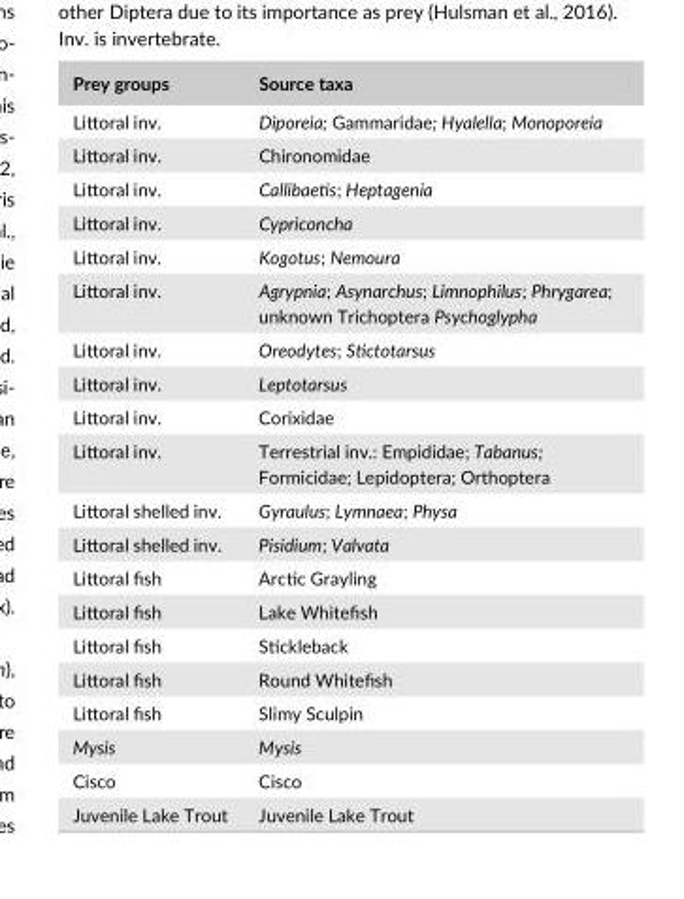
<table><thead><tr><td>Prey groups</td><td>Source taxa</td></tr></thead><tbody><tr><td>Littoral inv.</td><td>Diporeia; Gammaridae; Hyalella; Monoporeia</td></tr><tr><td>Littoral inv.</td><td>Chironomidae</td></tr><tr><td>Littoral inv.</td><td>Callibaetis; Heptagenia</td></tr><tr><td>Littoral inv.</td><td>Cypriconcha</td></tr><tr><td>Littoral inv.</td><td>Kogotus; Nemoura</td></tr><tr><td>Littoral inv.</td><td>Agrypnia; Asynarchus; Limnophilus; Phrygarea; unknown Trichoptera Psychoglypha</td></tr><tr><td>Littoral inv.</td><td>Oreodytes; Stictotarsus</td></tr><tr><td>Littoral inv.</td><td>Leptotarsus</td></tr><tr><td>Littoral inv.</td><td>Corixidae</td></tr><tr><td>Littoral inv.</td><td>Terrestrial inv.: Empididae; Tabanus; Formicidae; Lepidoptera; Orthoptera</td></tr><tr><td>Littoral shelled inv.</td><td>Gyraulus; Lymnaea; Physa</td></tr><tr><td>Littoral shelled inv.</td><td>Pisidium; Valvata</td></tr><tr><td>Littoral fish</td><td>Arctic Grayling</td></tr><tr><td>Littoral fish</td><td>Lake Whitefish</td></tr><tr><td>Littoral fish</td><td>Stickleback</td></tr><tr><td>Littoral fish</td><td>Round Whitefish</td></tr><tr><td>Littoral fish</td><td>Slimy Sculpin</td></tr><tr><td>Mysis</td><td>Mysis</td></tr><tr><td>Cisco</td><td>Cisco</td></tr><tr><td>Juvenile Lake Trout</td><td>Juvenile Lake Trout</td></tr></tbody></table>